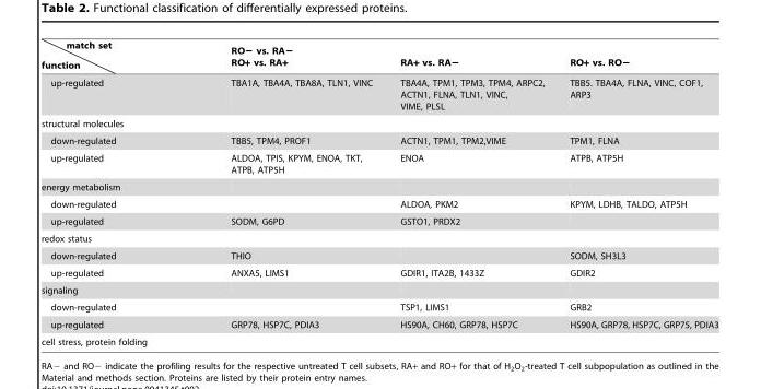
<table><thead><tr><td>match set function</td><td>RO− vs. RA− RO+ vs. RA+</td><td>RA+ vs. RA−</td><td>RO+ vs. RO−</td></tr></thead><tbody><tr><td>up-regulated</td><td>TBA1A, TBA4A, TBA8A, TLN1, VINC</td><td>TBA4A, TPM1, TPM3, TPM4, ARPC2, ACTN1, FLNA, TLN1, VINC, VIME, PLSL</td><td>TBB5. TBA4A, FLNA, VINC, COF1, ARP3</td></tr><tr><td colspan="4">structural molecules</td></tr><tr><td>down-regulated</td><td>TBB5, TPM4, PROF1</td><td>ACTN1, TPM1, TPM2,VIME</td><td>TPM1, FLNA</td></tr><tr><td>up-regulated</td><td>ALDOA, TPIS, KPYM, ENOA, TKT, ATPB, ATP5H</td><td>ENOA</td><td>ATPB, ATP5H</td></tr><tr><td colspan="4">energy metabolism</td></tr><tr><td>down-regulated</td><td></td><td>ALDOA, PKM2</td><td>KPYM, LDHB, TALDO, ATP5H</td></tr><tr><td>up-regulated</td><td>SODM, G6PD</td><td>GSTO1, PRDX2</td><td></td></tr><tr><td colspan="4">redox status</td></tr><tr><td>down-regulated</td><td>THIO</td><td></td><td>SODM, SH3L3</td></tr><tr><td>up-regulated</td><td>ANXA5, LIMS1</td><td>GDIR1, ITA2B, 1433Z</td><td>GDIR2</td></tr><tr><td colspan="4">signaling</td></tr><tr><td>down-regulated</td><td></td><td>TSP1, LIMS1</td><td>GRB2</td></tr><tr><td>up-regulated</td><td>GRP78, HSP7C, PDIA3</td><td>HS90A, CH60, GRP78, HSP7C</td><td>HS90A, GRP78, HSP7C, GRP75, PDIA3</td></tr><tr><td>cell stress, protein folding</td><td></td><td></td><td></td></tr></tbody></table>